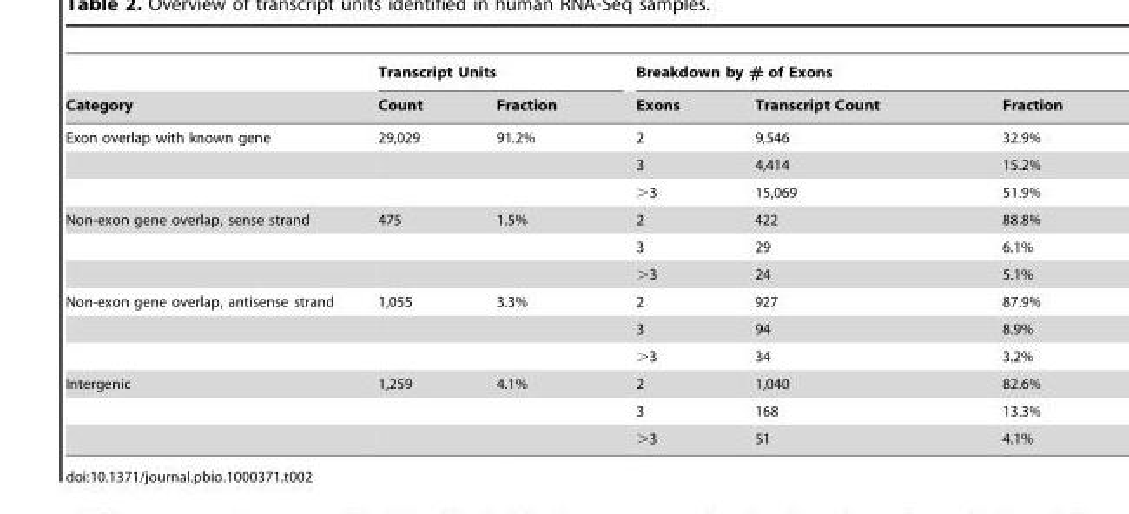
<table><thead><tr><td rowspan="2">Category</td><td colspan="2">Transcript Units</td><td colspan="3">Breakdown by # of Exons</td></tr><tr><td>Count</td><td>Fraction</td><td>Exons</td><td>Transcript Count</td><td>Fraction</td></tr></thead><tbody><tr><td rowspan="3">Exon overlap with known gene</td><td>29,029</td><td>91.2%</td><td>2</td><td>9,546</td><td>32.9%</td></tr><tr><td></td><td></td><td>3</td><td>4,414</td><td>15.2%</td></tr><tr><td></td><td></td><td>&gt;3</td><td>15,069</td><td>51.9%</td></tr><tr><td rowspan="3">Non-exon gene overlap, sense strand</td><td>475</td><td>1.5%</td><td>2</td><td>422</td><td>88.8%</td></tr><tr><td></td><td></td><td>3</td><td>29</td><td>6.1%</td></tr><tr><td></td><td></td><td>&gt;3</td><td>24</td><td>5.1%</td></tr><tr><td rowspan="3">Non-exon gene overlap, antisense strand</td><td>1,055</td><td>3.3%</td><td>2</td><td>927</td><td>87.9%</td></tr><tr><td></td><td></td><td>3</td><td>94</td><td>8.9%</td></tr><tr><td></td><td></td><td>&gt;3</td><td>34</td><td>3.2%</td></tr><tr><td rowspan="3">Intergenic</td><td>1,259</td><td>4.1%</td><td>2</td><td>1,040</td><td>82.6%</td></tr><tr><td></td><td></td><td>3</td><td>168</td><td>13.3%</td></tr><tr><td></td><td></td><td>&gt;3</td><td>51</td><td>4.1%</td></tr></tbody></table>